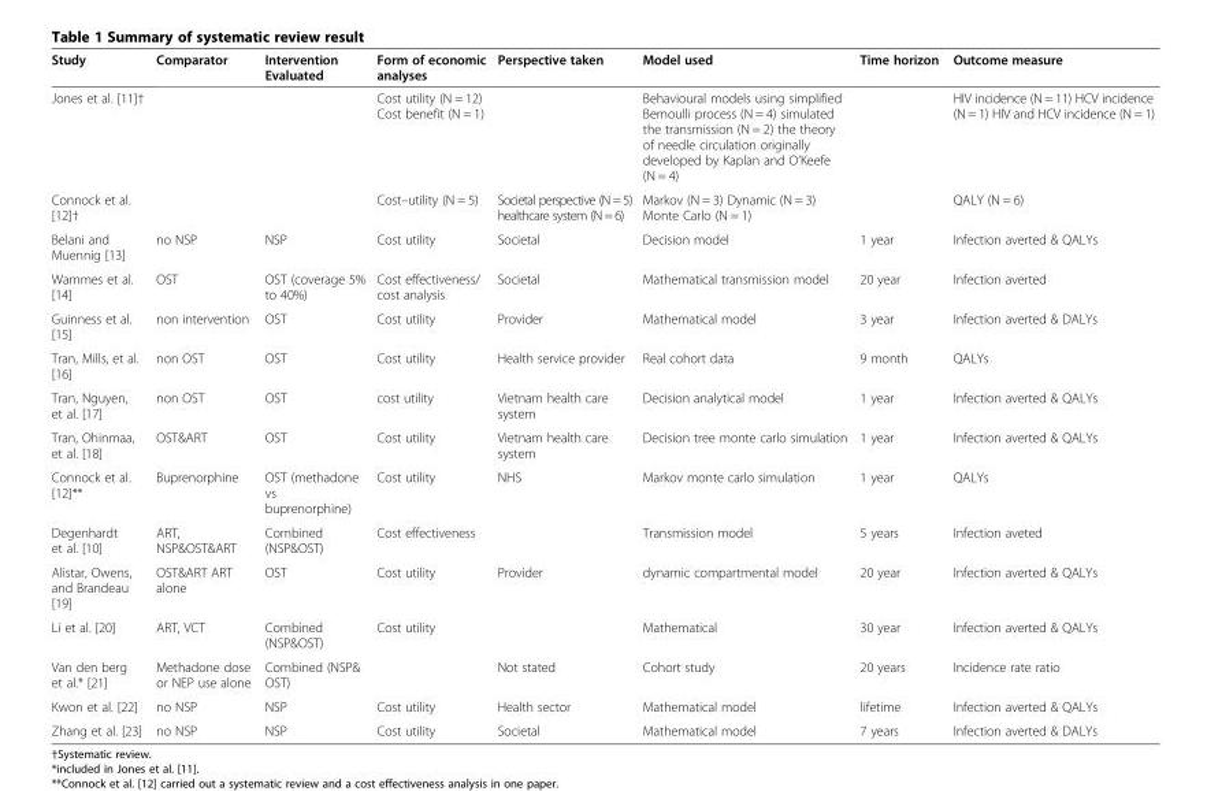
<table><thead><tr><td>Study</td><td>Comparator</td><td>Intervention Evaluated</td><td>Form of economic analyses</td><td>Perspective taken</td><td>Model used</td><td>Time horizon</td><td>Outcome measure</td></tr></thead><tbody><tr><td>Jones et al. [11]†</td><td></td><td></td><td>Cost utility (N = 12) Cost benefit (N = 1)</td><td></td><td>Behavioural models using simplified Bernoulli process (N = 4) simulated the transmission (N = 2) the theory of needle circulation originally developed by Kaplan and O’Keefe (N = 4)</td><td></td><td>HIV incidence (N = 11) HCV incidence (N = 1) HIV and HCV incidence (N = 1)</td></tr><tr><td>Connock et al. [12]†</td><td></td><td></td><td>Cost–utility (N = 5)</td><td>Societal perspective (N = 5) healthcare system (N = 6)</td><td>Markov (N = 3) Dynamic (N = 3) Monte Carlo (N = 1)</td><td></td><td>QALY (N = 6)</td></tr><tr><td>Belani and Muennig [13]</td><td>no NSP</td><td>NSP</td><td>Cost utility</td><td>Societal</td><td>Decision model</td><td>1 year</td><td>Infection averted &amp; QALYs</td></tr><tr><td>Wammes et al. [14]</td><td>OST</td><td>OST (coverage 5% to 40%)</td><td>Cost effectiveness/ cost analysis</td><td>Societal</td><td>Mathematical transmission model</td><td>20 year</td><td>Infection averted</td></tr><tr><td>Guinness et al. [15]</td><td>non intervention</td><td>OST</td><td>Cost utility</td><td>Provider</td><td>Mathematical model</td><td>3 year</td><td>Infection averted &amp; DALYs</td></tr><tr><td>Tran, Mills, et al. [16]</td><td>non OST</td><td>OST</td><td>Cost utility</td><td>Health service provider</td><td>Real cohort data</td><td>9 month</td><td>QALYs</td></tr><tr><td>Tran, Nguyen, et al. [17]</td><td>non OST</td><td>OST</td><td>cost utility</td><td>Vietnam health care system</td><td>Decision analytical model</td><td>1 year</td><td>Infection averted &amp; QALYs</td></tr><tr><td>Tran, Ohinmaa, et al. [18]</td><td>OST&amp;ART</td><td>OST</td><td>Cost utility</td><td>Vietnam health care system</td><td>Decision tree monte carlo simulation</td><td>1 year</td><td>Infection averted &amp; QALYs</td></tr><tr><td>Connock et al. [12]**</td><td>Buprenorphine</td><td>OST (methadone vs buprenorphine)</td><td>Cost utility</td><td>NHS</td><td>Markov monte carlo simulation</td><td>1 year</td><td>QALYs</td></tr><tr><td>Degenhardt et al. [10]</td><td>ART, NSP&amp;OST&amp;ART</td><td>Combined (NSP&amp;OST)</td><td>Cost effectiveness</td><td></td><td>Transmission model</td><td>5 years</td><td>Infection aveted</td></tr><tr><td>Alistar, Owens, and Brandeau [19]</td><td>OST&amp;ART ART alone</td><td>OST</td><td>Cost utility</td><td>Provider</td><td>dynamic compartmental model</td><td>20 year</td><td>Infection averted &amp; QALYs</td></tr><tr><td>Li et al. [20]</td><td>ART, VCT</td><td>Combined (NSP&amp;OST)</td><td>Cost utility</td><td></td><td>Mathematical</td><td>30 year</td><td>Infection averted &amp; QALYs</td></tr><tr><td>Van den berg et al.* [21]</td><td>Methadone dose or NEP use alone</td><td>Combined (NSP&amp; OST)</td><td></td><td>Not stated</td><td>Cohort study</td><td>20 years</td><td>Incidence rate ratio</td></tr><tr><td>Kwon et al. [22]</td><td>no NSP</td><td>NSP</td><td>Cost utility</td><td>Health sector</td><td>Mathematical model</td><td>lifetime</td><td>Infection averted &amp; QALYs</td></tr><tr><td>Zhang et al. [23]</td><td>no NSP</td><td>NSP</td><td>Cost utility</td><td>Societal</td><td>Mathematical model</td><td>7 years</td><td>Infection averted &amp; DALYs</td></tr></tbody></table>